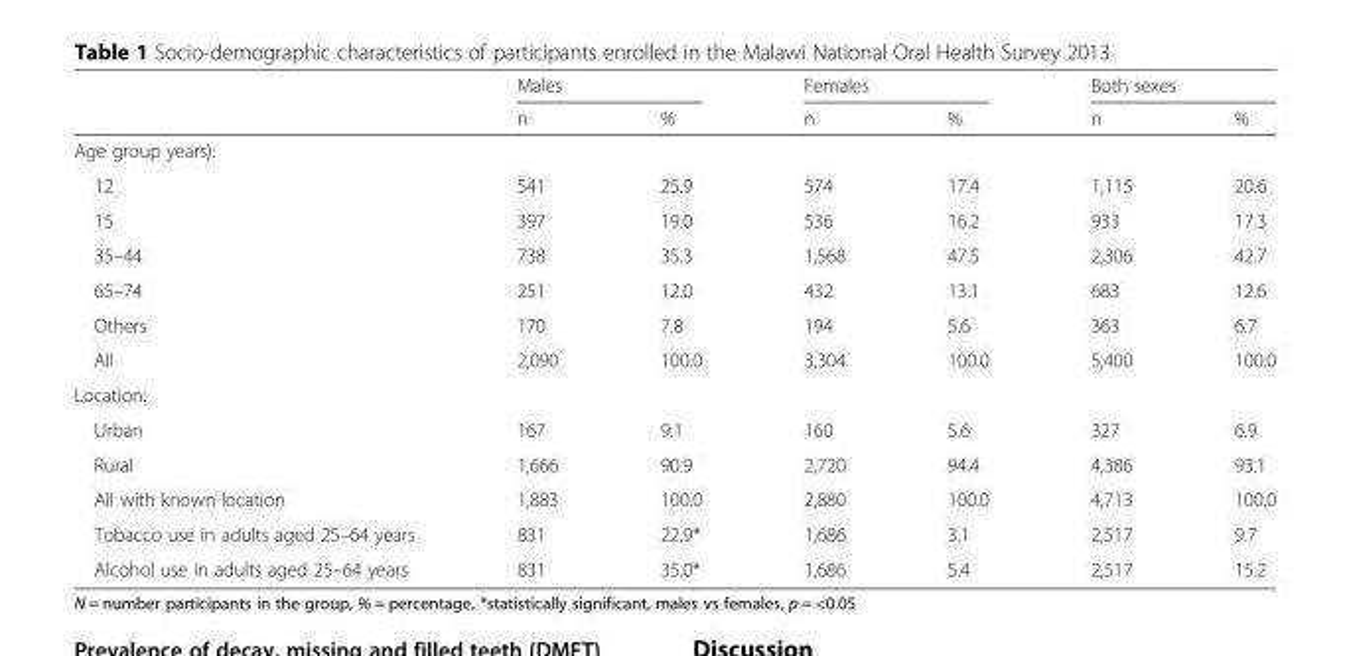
<table><thead><tr><td rowspan="2"></td><td colspan="2">Males</td><td colspan="2">Females</td><td colspan="2">Both sexes</td></tr><tr><td>n</td><td>%</td><td>n</td><td>%</td><td>n</td><td>%</td></tr></thead><tbody><tr><td colspan="7">Age group years):</td></tr><tr><td>12</td><td>541</td><td>25.9</td><td>574</td><td>17.4</td><td>1,115</td><td>20.6</td></tr><tr><td>15</td><td>397</td><td>19.0</td><td>536</td><td>16.2</td><td>933</td><td>17.3</td></tr><tr><td>35–44</td><td>738</td><td>35.3</td><td>1,568</td><td>47.5</td><td>2,306</td><td>42.7</td></tr><tr><td>65–74</td><td>251</td><td>12.0</td><td>432</td><td>13.1</td><td>683</td><td>12.6</td></tr><tr><td>Others</td><td>170</td><td>7.8</td><td>194</td><td>5.6</td><td>363</td><td>6.7</td></tr><tr><td>All</td><td>2,090</td><td>100.0</td><td>3,304</td><td>100.0</td><td>5,400</td><td>100.0</td></tr><tr><td colspan="7">Location:</td></tr><tr><td>Urban</td><td>167</td><td>9.1</td><td>160</td><td>5.6</td><td>327</td><td>6.9</td></tr><tr><td>Rural</td><td>1,666</td><td>90.9</td><td>2,720</td><td>94.4</td><td>4,386</td><td>93.1</td></tr><tr><td>All with known location</td><td>1,883</td><td>100.0</td><td>2,880</td><td>100.0</td><td>4,713</td><td>100.0</td></tr><tr><td>Tobacco use in adults aged 25–64 years</td><td>831</td><td>22.9*</td><td>1,686</td><td>3.1</td><td>2,517</td><td>9.7</td></tr><tr><td>Alcohol use in adults aged 25–64 years</td><td>831</td><td>35.0*</td><td>1,686</td><td>5.4</td><td>2,517</td><td>15.2</td></tr></tbody></table>